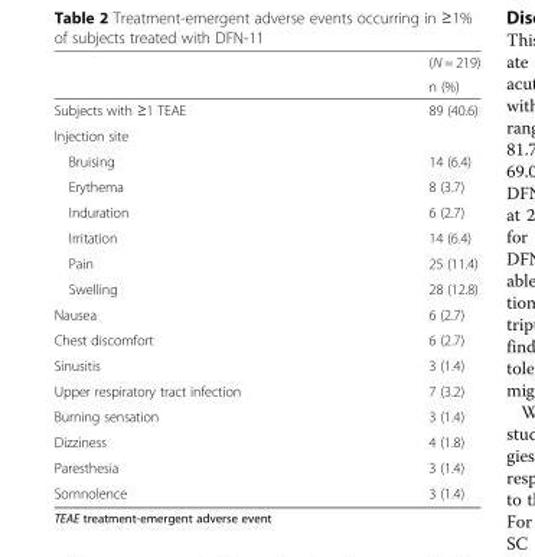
<table><thead><tr><td rowspan="2"></td><td rowspan="2">(N = 219) n (%)</td></tr><tr></tr></thead><tbody><tr><td>Subjects with ≥1 TEAE</td><td>89 (40.6)</td></tr><tr><td colspan="2">Injection site</td></tr><tr><td>Bruising</td><td>14 (6.4)</td></tr><tr><td>Erythema</td><td>8 (3.7)</td></tr><tr><td>Induration</td><td>6 (2.7)</td></tr><tr><td>Irritation</td><td>14 (6.4)</td></tr><tr><td>Pain</td><td>25 (11.4)</td></tr><tr><td>Swelling</td><td>28 (12.8)</td></tr><tr><td>Nausea</td><td>6 (2.7)</td></tr><tr><td>Chest discomfort</td><td>6 (2.7)</td></tr><tr><td>Sinusitis</td><td>3 (1.4)</td></tr><tr><td>Upper respiratory tract infection</td><td>7 (3.2)</td></tr><tr><td>Burning sensation</td><td>3 (1.4)</td></tr><tr><td>Dizziness</td><td>4 (1.8)</td></tr><tr><td>Paresthesia</td><td>3 (1.4)</td></tr><tr><td>Somnolence</td><td>3 (1.4)</td></tr></tbody></table>